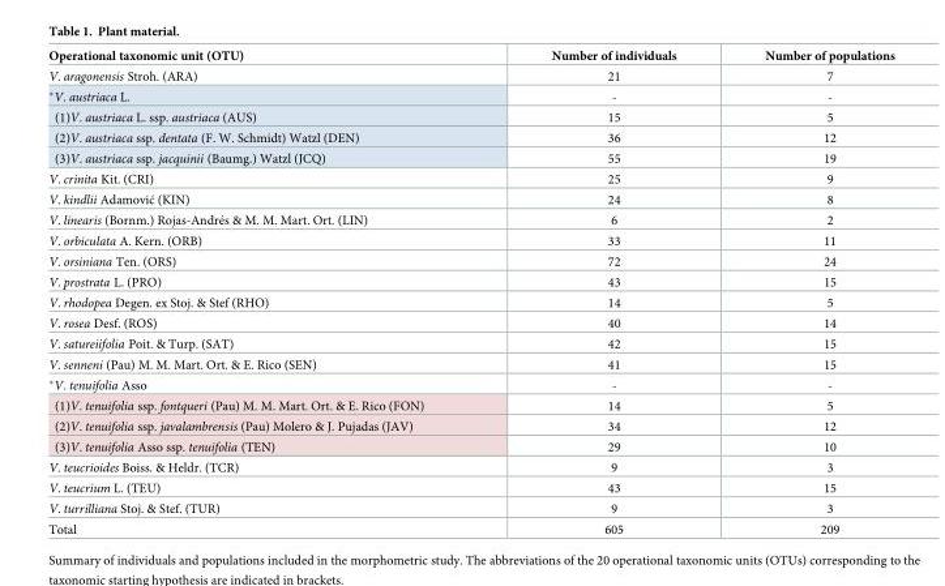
<table><thead><tr><td>Operational taxonomic unit (OTU)</td><td>Number of individuals</td><td>Number of populations</td></tr></thead><tbody><tr><td>V. aragonensis Stroh. (ARA)</td><td>21</td><td>7</td></tr><tr><td>*V. austriaca L.</td><td>-</td><td>-</td></tr><tr><td>(1)V. austriaca L. ssp. austriaca (AUS)</td><td>15</td><td>5</td></tr><tr><td>(2)V. austriaca ssp. dentata (F. W. Schmidt) Watzl (DEN)</td><td>36</td><td>12</td></tr><tr><td>(3)V. austriaca ssp. jacquinii (Baumg.) Watzl (JCQ)</td><td>55</td><td>19</td></tr><tr><td>V. crinita Kit. (CRI)</td><td>25</td><td>9</td></tr><tr><td>V. kindlii Adamović (KIN)</td><td>24</td><td>8</td></tr><tr><td>V. linearis (Bornm.) Rojas-Andre´s &amp; M. M. Mart. Ort. (LIN)</td><td>6</td><td>2</td></tr><tr><td>V. orbiculata A. Kern. (ORB)</td><td>33</td><td>11</td></tr><tr><td>V. orsiniana Ten. (ORS)</td><td>72</td><td>24</td></tr><tr><td>V. prostrata L. (PRO)</td><td>43</td><td>15</td></tr><tr><td>V. rhodopea Degen. ex Stoj. &amp; Stef (RHO)</td><td>14</td><td>5</td></tr><tr><td>V. rosea Desf. (ROS)</td><td>40</td><td>14</td></tr><tr><td>V. satureiifolia Poit. &amp; Turp. (SAT)</td><td>42</td><td>15</td></tr><tr><td>V. senneni (Pau) M. M. Mart. Ort. &amp; E. Rico (SEN)</td><td>41</td><td>15</td></tr><tr><td>*V. tenuifolia Asso</td><td>-</td><td>-</td></tr><tr><td>(1)V. tenuifolia ssp. fontqueri (Pau) M. M. Mart. Ort. &amp; E. Rico (FON)</td><td>14</td><td>5</td></tr><tr><td>(2)V. tenuifolia ssp. javalambrensis (Pau) Molero &amp; J. Pujadas (JAV)</td><td>34</td><td>12</td></tr><tr><td>(3)V. tenuifolia Asso ssp. tenuifolia (TEN)</td><td>29</td><td>10</td></tr><tr><td>V. teucrioides Boiss. &amp; Heldr. (TCR)</td><td>9</td><td>3</td></tr><tr><td>V. teucrium L. (TEU)</td><td>43</td><td>15</td></tr><tr><td>V. turrilliana Stoj. &amp; Stef. (TUR)</td><td>9</td><td>3</td></tr><tr><td>Total</td><td>605</td><td>209</td></tr></tbody></table>